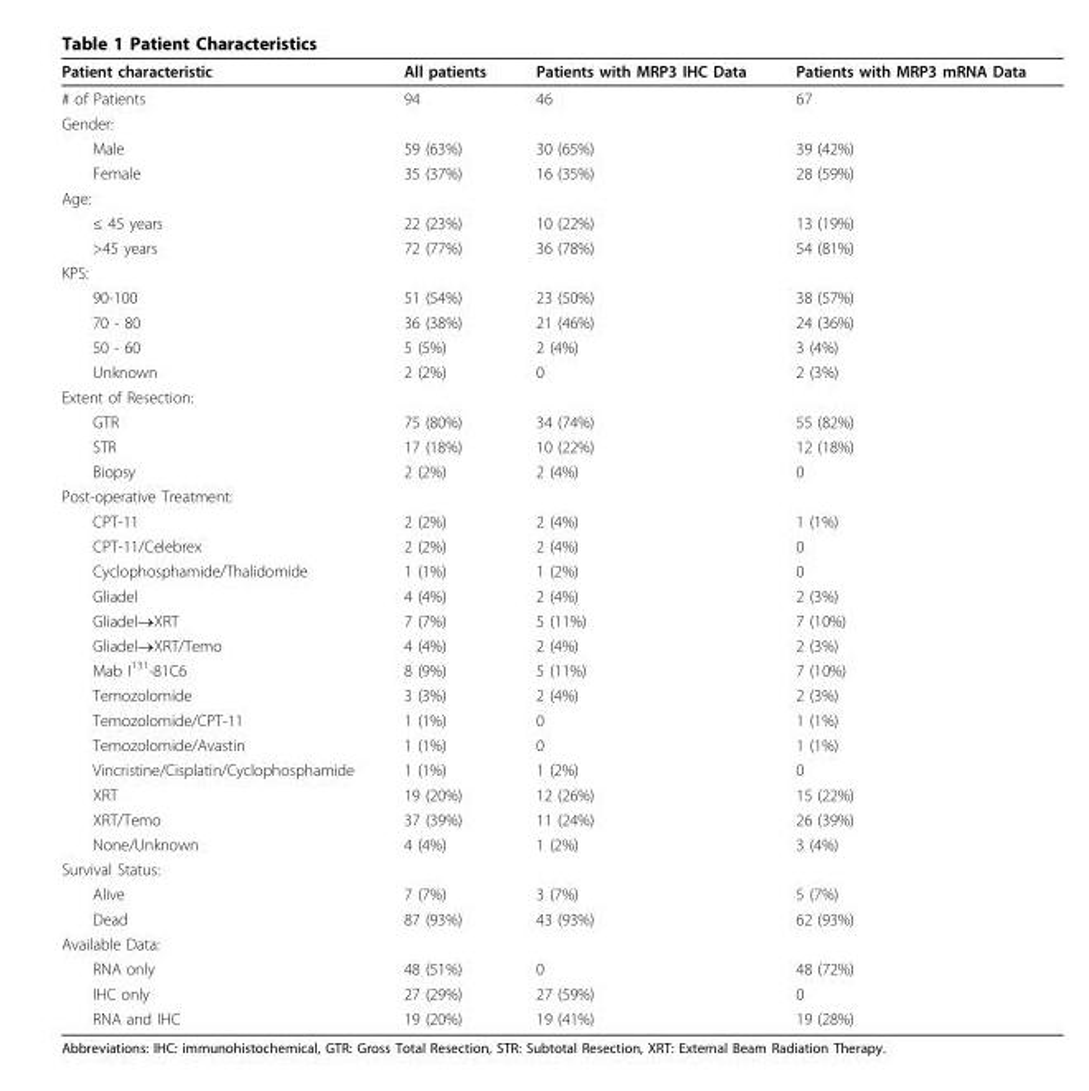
<table><thead><tr><td>Patient characteristic</td><td>All patients</td><td>Patients with MRP3 IHC Data</td><td>Patients with MRP3 mRNA Data</td></tr></thead><tbody><tr><td># of Patients</td><td>94</td><td>46</td><td>67</td></tr><tr><td colspan="4">Gender:</td></tr><tr><td>Male</td><td>59 (63%)</td><td>30 (65%)</td><td>39 (42%)</td></tr><tr><td>Female</td><td>35 (37%)</td><td>16 (35%)</td><td>28 (59%)</td></tr><tr><td colspan="4">Age:</td></tr><tr><td>≤ 45 years</td><td>22 (23%)</td><td>10 (22%)</td><td>13 (19%)</td></tr><tr><td>&gt;45 years</td><td>72 (77%)</td><td>36 (78%)</td><td>54 (81%)</td></tr><tr><td colspan="4">KPS:</td></tr><tr><td>90-100</td><td>51 (54%)</td><td>23 (50%)</td><td>38 (57%)</td></tr><tr><td>70 - 80</td><td>36 (38%)</td><td>21 (46%)</td><td>24 (36%)</td></tr><tr><td>50 - 60</td><td>5 (5%)</td><td>2 (4%)</td><td>3 (4%)</td></tr><tr><td>Unknown</td><td>2 (2%)</td><td>0</td><td>2 (3%)</td></tr><tr><td colspan="4">Extent of Resection:</td></tr><tr><td>GTR</td><td>75 (80%)</td><td>34 (74%)</td><td>55 (82%)</td></tr><tr><td>STR</td><td>17 (18%)</td><td>10 (22%)</td><td>12 (18%)</td></tr><tr><td>Biopsy</td><td>2 (2%)</td><td>2 (4%)</td><td>0</td></tr><tr><td colspan="4">Post-operative Treatment:</td></tr><tr><td>CPT-11</td><td>2 (2%)</td><td>2 (4%)</td><td>1 (1%)</td></tr><tr><td>CPT-11/Celebrex</td><td>2 (2%)</td><td>2 (4%)</td><td>0</td></tr><tr><td>Cyclophosphamide/Thalidomide</td><td>1 (1%)</td><td>1 (2%)</td><td>0</td></tr><tr><td>Gliadel</td><td>4 (4%)</td><td>2 (4%)</td><td>2 (3%)</td></tr><tr><td>Gliadel→XRT</td><td>7 (7%)</td><td>5 (11%)</td><td>7 (10%)</td></tr><tr><td>Gliadel→XRT/Temo</td><td>4 (4%)</td><td>2 (4%)</td><td>2 (3%)</td></tr><tr><td>Mab I<sup>131</sup>-81C6</td><td>8 (9%)</td><td>5 (11%)</td><td>7 (10%)</td></tr><tr><td>Temozolomide</td><td>3 (3%)</td><td>2 (4%)</td><td>2 (3%)</td></tr><tr><td>Temozolomide/CPT-11</td><td>1 (1%)</td><td>0</td><td>1 (1%)</td></tr><tr><td>Temozolomide/Avastin</td><td>1 (1%)</td><td>0</td><td>1 (1%)</td></tr><tr><td>Vincristine/Cisplatin/Cyclophosphamide</td><td>1 (1%)</td><td>1 (2%)</td><td>0</td></tr><tr><td>XRT</td><td>19 (20%)</td><td>12 (26%)</td><td>15 (22%)</td></tr><tr><td>XRT/Temo</td><td>37 (39%)</td><td>11 (24%)</td><td>26 (39%)</td></tr><tr><td>None/Unknown</td><td>4 (4%)</td><td>1 (2%)</td><td>3 (4%)</td></tr><tr><td colspan="4">Survival Status:</td></tr><tr><td>Alive</td><td>7 (7%)</td><td>3 (7%)</td><td>5 (7%)</td></tr><tr><td>Dead</td><td>87 (93%)</td><td>43 (93%)</td><td>62 (93%)</td></tr><tr><td colspan="4">Available Data:</td></tr><tr><td>RNA only</td><td>48 (51%)</td><td>0</td><td>48 (72%)</td></tr><tr><td>IHC only</td><td>27 (29%)</td><td>27 (59%)</td><td>0</td></tr><tr><td>RNA and IHC</td><td>19 (20%)</td><td>19 (41%)</td><td>19 (28%)</td></tr></tbody></table>